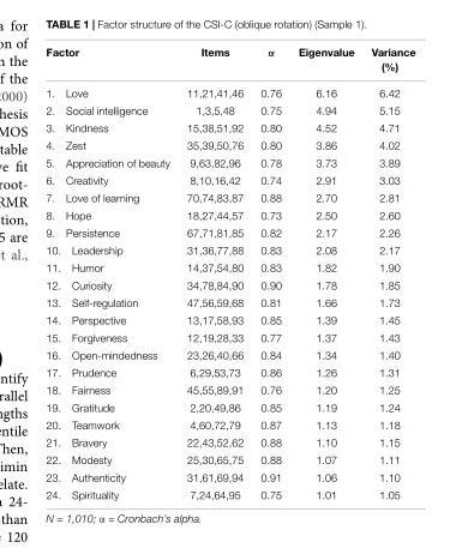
<table><thead><tr><td>Factor</td><td>Items</td><td>α</td><td>Eigenvalue</td><td>Variance (%)</td></tr></thead><tbody><tr><td>1. Love</td><td>11,21,41,46</td><td>0.76</td><td>6.16</td><td>6.42</td></tr><tr><td>2. Social intelligence</td><td>1,3,5,48</td><td>0.75</td><td>4.94</td><td>5.15</td></tr><tr><td>3. Kindness</td><td>15,38,51,92</td><td>0.80</td><td>4.52</td><td>4.71</td></tr><tr><td>4. Zest</td><td>35,39,50,76</td><td>0.80</td><td>3.86</td><td>4.02</td></tr><tr><td>5. Appreciation of beauty</td><td>9,63,82,96</td><td>0.78</td><td>3.73</td><td>3.89</td></tr><tr><td>6. Creativity</td><td>8,10,16,42</td><td>0.74</td><td>2.91</td><td>3.03</td></tr><tr><td>7. Love of learning</td><td>70,74,83,87</td><td>0.88</td><td>2.70</td><td>2.81</td></tr><tr><td>8. Hope</td><td>18,27,44,57</td><td>0.73</td><td>2.50</td><td>2.60</td></tr><tr><td>9. Persistence</td><td>67,71,81,85</td><td>0.82</td><td>2.17</td><td>2.26</td></tr><tr><td>10. Leadership</td><td>31,36,77,88</td><td>0.83</td><td>2.08</td><td>2.17</td></tr><tr><td>11. Humor</td><td>14,37,54,80</td><td>0.83</td><td>1.82</td><td>1.90</td></tr><tr><td>12. Curiosity</td><td>34,78,84,90</td><td>0.90</td><td>1.78</td><td>1.85</td></tr><tr><td>13. Self-regulation</td><td>47,56,59,68</td><td>0.81</td><td>1.66</td><td>1.73</td></tr><tr><td>14. Perspective</td><td>13,17,58,93</td><td>0.85</td><td>1.39</td><td>1.45</td></tr><tr><td>15. Forgiveness</td><td>12,19,28,33</td><td>0.77</td><td>1.37</td><td>1.43</td></tr><tr><td>16. Open-mindedness</td><td>23,26,40,66</td><td>0.84</td><td>1.34</td><td>1.40</td></tr><tr><td>17. Prudence</td><td>6,29,53,73</td><td>0.86</td><td>1.26</td><td>1.31</td></tr><tr><td>18. Fairness</td><td>45,55,89,91</td><td>0.76</td><td>1.20</td><td>1.25</td></tr><tr><td>19. Gratitude</td><td>2,20,49,86</td><td>0.85</td><td>1.19</td><td>1.24</td></tr><tr><td>20. Teamwork</td><td>4,60,72,79</td><td>0.87</td><td>1.13</td><td>1.18</td></tr><tr><td>21. Bravery</td><td>22,43,52,62</td><td>0.88</td><td>1.10</td><td>1.15</td></tr><tr><td>22. Modesty</td><td>25,30,65,75</td><td>0.88</td><td>1.07</td><td>1.11</td></tr><tr><td>23. Authenticity</td><td>31,61,69,94</td><td>0.91</td><td>1.06</td><td>1.10</td></tr><tr><td>24. Spirituality</td><td>7,24,64,95</td><td>0.75</td><td>1.01</td><td>1.05</td></tr></tbody></table>